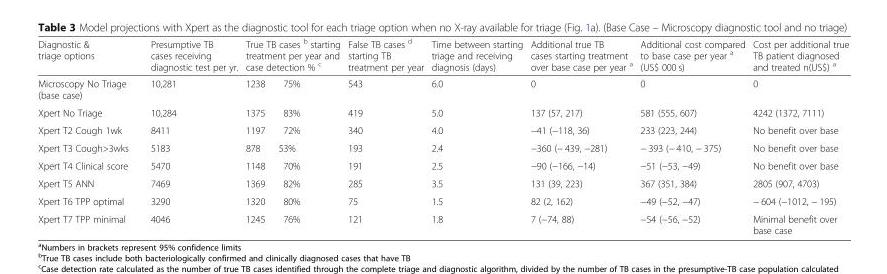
<table><thead><tr><td>Diagnostic &amp; triage options</td><td>Presumptive TB cases receiving diagnostic test per yr.</td><td>True TB cases <sup>b</sup> starting treatment per year and case detection % <sup>c</sup></td><td>False TB cases <sup>d</sup> starting TB treatment per year</td><td>Time between starting triage and receiving diagnosis (days)</td><td>Additional true TB cases starting treatment over base case per year <sup>a</sup></td><td>Additional cost compared to base case per year <sup>a</sup> (US$ 000 s)</td><td>Cost per additional true TB patient diagnosed and treated n(US$) <sup>a</sup></td></tr></thead><tbody><tr><td>Microscopy No Triage (base case)</td><td>10,281</td><td>1238 75%</td><td>543</td><td>6.0</td><td>0</td><td>0</td><td>0</td></tr><tr><td>Xpert No Triage</td><td>10,284</td><td>1375 83%</td><td>419</td><td>5.0</td><td>137 (57, 217)</td><td>581 (555, 607)</td><td>4242 (1372, 7111)</td></tr><tr><td>Xpert T2 Cough 1wk</td><td>8411</td><td>1197 72%</td><td>340</td><td>4.0</td><td>−41 (−118, 36)</td><td>233 (223, 244)</td><td>No benefit over base</td></tr><tr><td>Xpert T3 Cough&gt;3wks</td><td>5183</td><td>878 53%</td><td>193</td><td>2.4</td><td>−360 (− 439, −281)</td><td>− 393 (− 410, − 375)</td><td>No benefit over base</td></tr><tr><td>Xpert T4 Clinical score</td><td>5470</td><td>1148 70%</td><td>191</td><td>2.5</td><td>−90 (−166, −14)</td><td>−51 (−53, −49)</td><td>No benefit over base</td></tr><tr><td>Xpert T5 ANN</td><td>7469</td><td>1369 82%</td><td>285</td><td>3.5</td><td>131 (39, 223)</td><td>367 (351, 384)</td><td>2805 (907, 4703)</td></tr><tr><td>Xpert T6 TPP optimal</td><td>3290</td><td>1320 80%</td><td>75</td><td>1.5</td><td>82 (2, 162)</td><td>−49 (−52, −47)</td><td>− 604 (−1012, − 195)</td></tr><tr><td>Xpert T7 TPP minimal</td><td>4046</td><td>1245 76%</td><td>121</td><td>1.8</td><td>7 (−74, 88)</td><td>−54 (−56, −52)</td><td>Minimal benefit over base case</td></tr></tbody></table>